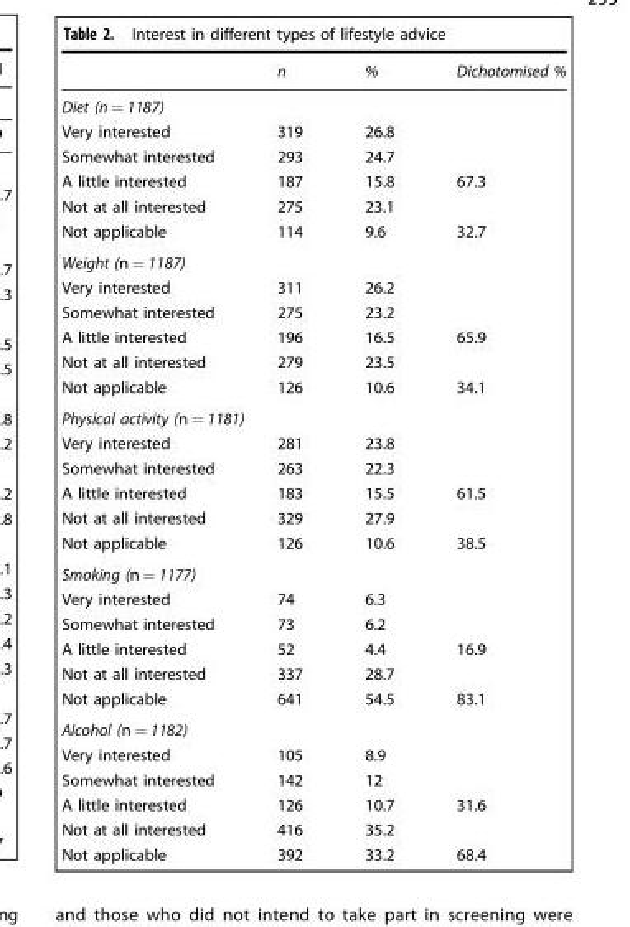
<table><thead><tr><td></td><td>n</td><td>%</td><td>Dichotomised %</td></tr></thead><tbody><tr><td colspan="4">Diet (n = 1187)</td></tr><tr><td>Very interested</td><td>319</td><td>26.8</td><td></td></tr><tr><td>Somewhat interested</td><td>293</td><td>24.7</td><td></td></tr><tr><td>A little interested</td><td>187</td><td>15.8</td><td>67.3</td></tr><tr><td>Not at all interested</td><td>275</td><td>23.1</td><td></td></tr><tr><td>Not applicable</td><td>114</td><td>9.6</td><td>32.7</td></tr><tr><td colspan="4">Weight (n = 1187)</td></tr><tr><td>Very interested</td><td>311</td><td>26.2</td><td></td></tr><tr><td>Somewhat interested</td><td>275</td><td>23.2</td><td></td></tr><tr><td>A little interested</td><td>196</td><td>16.5</td><td>65.9</td></tr><tr><td>Not at all interested</td><td>279</td><td>23.5</td><td></td></tr><tr><td>Not applicable</td><td>126</td><td>10.6</td><td>34.1</td></tr><tr><td colspan="4">Physical activity (n = 1181)</td></tr><tr><td>Very interested</td><td>281</td><td>23.8</td><td></td></tr><tr><td>Somewhat interested</td><td>263</td><td>22.3</td><td></td></tr><tr><td>A little interested</td><td>183</td><td>15.5</td><td>61.5</td></tr><tr><td>Not at all interested</td><td>329</td><td>27.9</td><td></td></tr><tr><td>Not applicable</td><td>126</td><td>10.6</td><td>38.5</td></tr><tr><td colspan="4">Smoking (n = 1177)</td></tr><tr><td>Very interested</td><td>74</td><td>6.3</td><td></td></tr><tr><td>Somewhat interested</td><td>73</td><td>6.2</td><td></td></tr><tr><td>A little interested</td><td>52</td><td>4.4</td><td>16.9</td></tr><tr><td>Not at all interested</td><td>337</td><td>28.7</td><td></td></tr><tr><td>Not applicable</td><td>641</td><td>54.5</td><td>83.1</td></tr><tr><td colspan="4">Alcohol (n = 1182)</td></tr><tr><td>Very interested</td><td>105</td><td>8.9</td><td></td></tr><tr><td>Somewhat interested</td><td>142</td><td>12</td><td></td></tr><tr><td>A little interested</td><td>126</td><td>10.7</td><td>31.6</td></tr><tr><td>Not at all interested</td><td>416</td><td>35.2</td><td></td></tr><tr><td>Not applicable</td><td>392</td><td>33.2</td><td>68.4</td></tr></tbody></table>